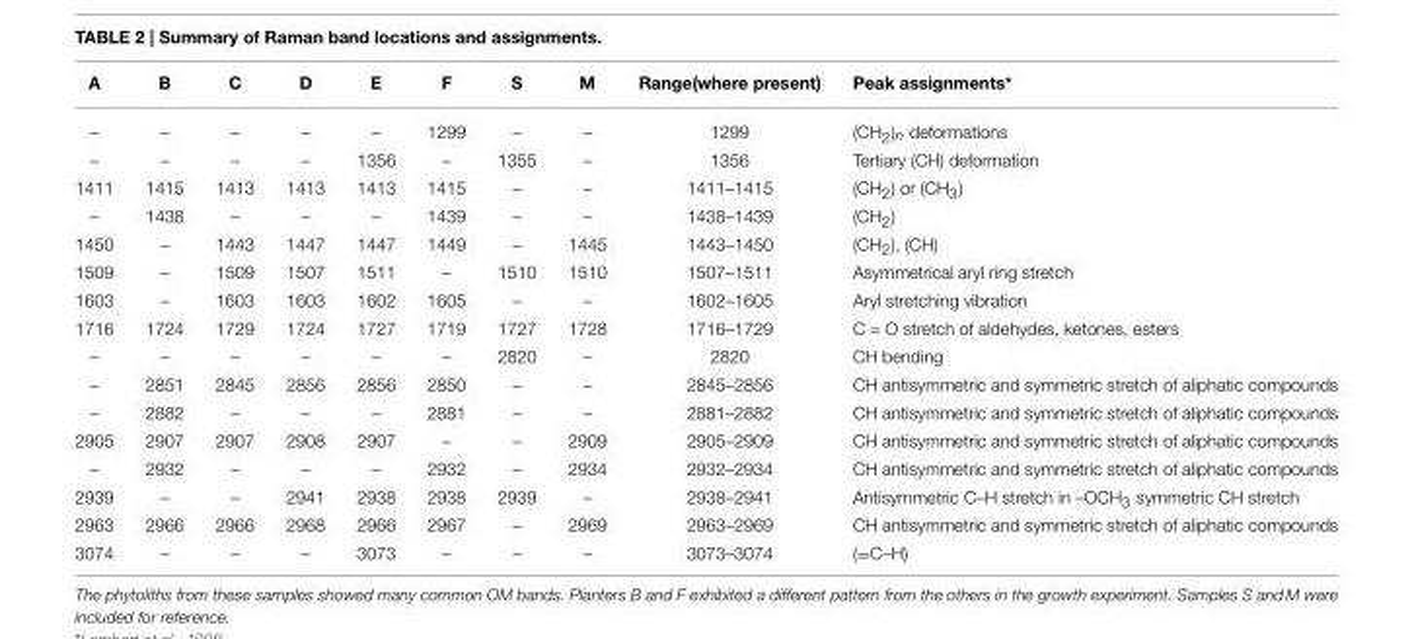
<table><thead><tr><td>A</td><td>B</td><td>C</td><td>D</td><td>E</td><td>F</td><td>S</td><td>M</td><td>Range(where present)</td><td>Peak assignments*</td></tr></thead><tbody><tr><td>–</td><td>–</td><td>–</td><td>–</td><td>–</td><td>1299</td><td>–</td><td>–</td><td>1299</td><td>(CH<sub>2</sub>)<sub>n</sub> deformations</td></tr><tr><td>–</td><td>–</td><td>–</td><td>–</td><td>1356</td><td>–</td><td>1355</td><td>–</td><td>1356</td><td>Tertiary (CH) deformation</td></tr><tr><td>1411</td><td>1415</td><td>1413</td><td>1413</td><td>1413</td><td>1415</td><td>–</td><td>–</td><td>1411–1415</td><td>(CH<sub>2</sub>) or (CH<sub>3</sub>)</td></tr><tr><td>–</td><td>1438</td><td>–</td><td>–</td><td>–</td><td>1439</td><td>–</td><td>–</td><td>1438–1439</td><td>(CH<sub>2</sub>)</td></tr><tr><td>1450</td><td>–</td><td>1443</td><td>1447</td><td>1447</td><td>1449</td><td>–</td><td>1445</td><td>1443–1450</td><td>(CH<sub>2</sub>), (CH)</td></tr><tr><td>1509</td><td>–</td><td>1509</td><td>1507</td><td>1511</td><td>–</td><td>1510</td><td>1510</td><td>1507–1511</td><td>Asymmetrical aryl ring stretch</td></tr><tr><td>1603</td><td>–</td><td>1603</td><td>1603</td><td>1602</td><td>1605</td><td>–</td><td>–</td><td>1602–1605</td><td>Aryl stretching vibration</td></tr><tr><td>1716</td><td>1724</td><td>1729</td><td>1724</td><td>1727</td><td>1719</td><td>1727</td><td>1728</td><td>1716–1729</td><td>C = O stretch of aldehydes, ketones, esters</td></tr><tr><td>–</td><td>–</td><td>–</td><td>–</td><td>–</td><td>–</td><td>2820</td><td>–</td><td>2820</td><td>CH bending</td></tr><tr><td>–</td><td>2851</td><td>2845</td><td>2856</td><td>2856</td><td>2850</td><td>–</td><td>–</td><td>2845–2856</td><td>CH antisymmetric and symmetric stretch of aliphatic compounds</td></tr><tr><td>–</td><td>2882</td><td>–</td><td>–</td><td>–</td><td>2881</td><td>–</td><td>–</td><td>2881–2882</td><td>CH antisymmetric and symmetric stretch of aliphatic compounds</td></tr><tr><td>2905</td><td>2907</td><td>2907</td><td>2908</td><td>2907</td><td>–</td><td>–</td><td>2909</td><td>2905–2909</td><td>CH antisymmetric and symmetric stretch of aliphatic compounds</td></tr><tr><td>–</td><td>2932</td><td>–</td><td>–</td><td>–</td><td>2932</td><td>–</td><td>2934</td><td>2932–2934</td><td>CH antisymmetric and symmetric stretch of aliphatic compounds</td></tr><tr><td>2939</td><td>–</td><td>–</td><td>2941</td><td>2938</td><td>2938</td><td>2939</td><td>–</td><td>2938–2941</td><td>Antisymmetric C–H stretch in –OCH<sub>3</sub> symmetric CH stretch</td></tr><tr><td>2963</td><td>2966</td><td>2966</td><td>2968</td><td>2966</td><td>2967</td><td>–</td><td>2969</td><td>2963–2969</td><td>CH antisymmetric and symmetric stretch of aliphatic compounds</td></tr><tr><td>3074</td><td>–</td><td>–</td><td>–</td><td>3073</td><td>–</td><td>–</td><td>–</td><td>3073–3074</td><td>(=C–H)</td></tr></tbody></table>